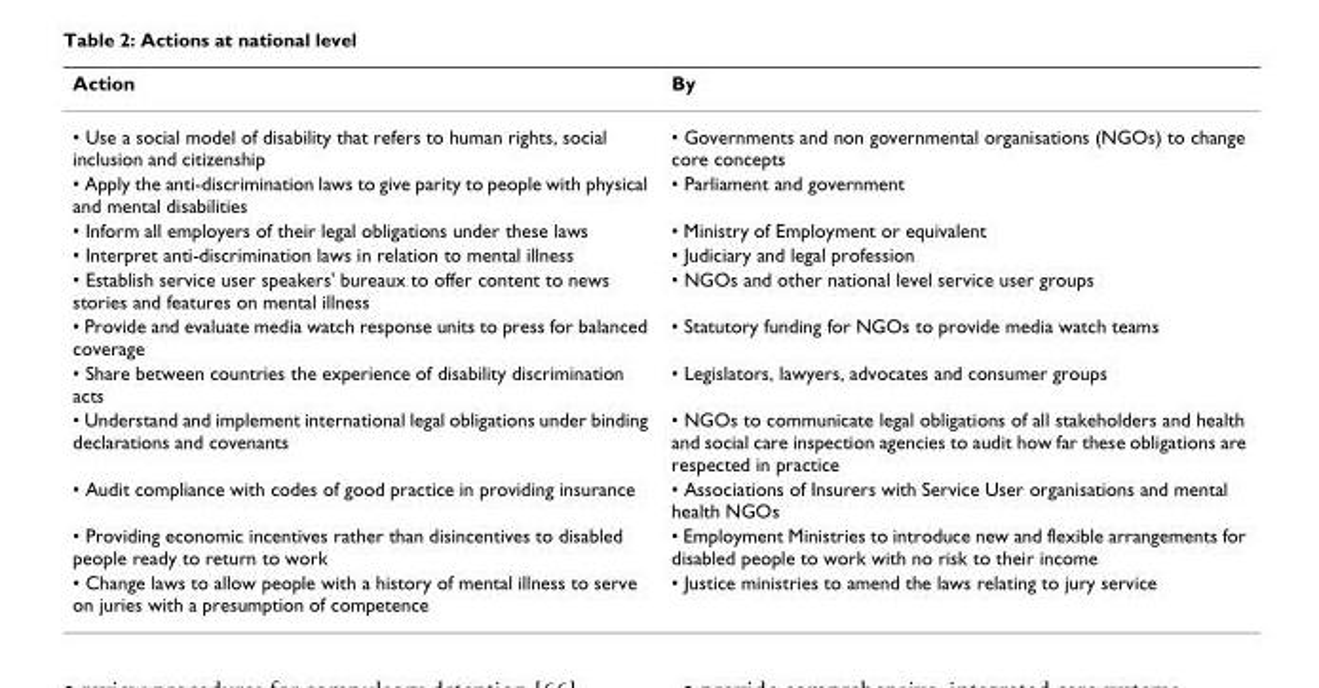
<table><thead><tr><td>Action</td><td>By</td></tr></thead><tbody><tr><td>• Use a social model of disability that refers to human rights, social inclusion and citizenship</td><td>• Governments and non governmental organisations (NGOs) to change core concepts</td></tr><tr><td>• Apply the anti-discrimination laws to give parity to people with physical and mental disabilities</td><td>• Parliament and government</td></tr><tr><td>• Inform all employers of their legal obligations under these laws</td><td>• Ministry of Employment or equivalent</td></tr><tr><td>• Interpret anti-discrimination laws in relation to mental illness</td><td>• Judiciary and legal profession</td></tr><tr><td>• Establish service user speakers&#x27; bureaux to offer content to news stories and features on mental illness</td><td>• NGOs and other national level service user groups</td></tr><tr><td>• Provide and evaluate media watch response units to press for balanced coverage</td><td>• Statutory funding for NGOs to provide media watch teams</td></tr><tr><td>• Share between countries the experience of disability discrimination acts</td><td>• Legislators, lawyers, advocates and consumer groups</td></tr><tr><td>• Understand and implement international legal obligations under binding declarations and covenants</td><td>• NGOs to communicate legal obligations of all stakeholders and health and social care inspection agencies to audit how far these obligations are respected in practice</td></tr><tr><td>• Audit compliance with codes of good practice in providing insurance</td><td>• Associations of Insurers with Service User organisations and mental health NGOs</td></tr><tr><td>• Providing economic incentives rather than disincentives to disabled people ready to return to work</td><td>• Employment Ministries to introduce new and flexible arrangements for disabled people to work with no risk to their income</td></tr><tr><td>• Change laws to allow people with a history of mental illness to serve on juries with a presumption of competence</td><td>• Justice ministries to amend the laws relating to jury service</td></tr></tbody></table>